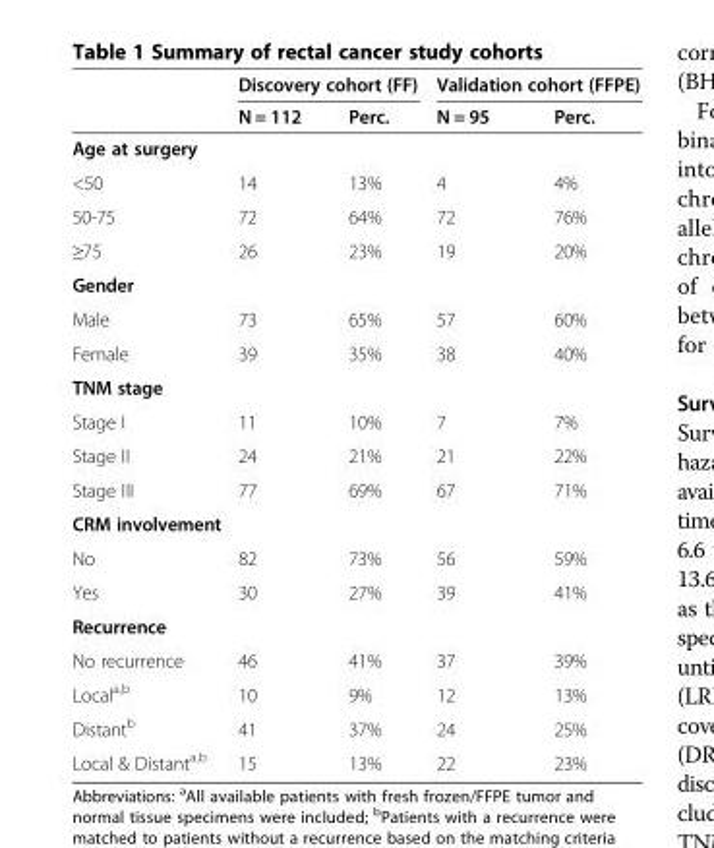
<table><thead><tr><td rowspan="2"></td><td colspan="2">Discovery cohort (FF)</td><td colspan="2">Validation cohort (FFPE)</td></tr><tr><td>N = 112</td><td>Perc.</td><td>N = 95</td><td>Perc.</td></tr></thead><tbody><tr><td colspan="5">Age at surgery</td></tr><tr><td>&lt;50</td><td>14</td><td>13%</td><td>4</td><td>4%</td></tr><tr><td>50-75</td><td>72</td><td>64%</td><td>72</td><td>76%</td></tr><tr><td>≥75</td><td>26</td><td>23%</td><td>19</td><td>20%</td></tr><tr><td colspan="5">Gender</td></tr><tr><td>Male</td><td>73</td><td>65%</td><td>57</td><td>60%</td></tr><tr><td>Female</td><td>39</td><td>35%</td><td>38</td><td>40%</td></tr><tr><td colspan="5">TNM stage</td></tr><tr><td>Stage I</td><td>11</td><td>10%</td><td>7</td><td>7%</td></tr><tr><td>Stage II</td><td>24</td><td>21%</td><td>21</td><td>22%</td></tr><tr><td>Stage III</td><td>77</td><td>69%</td><td>67</td><td>71%</td></tr><tr><td colspan="5">CRM involvement</td></tr><tr><td>No</td><td>82</td><td>73%</td><td>56</td><td>59%</td></tr><tr><td>Yes</td><td>30</td><td>27%</td><td>39</td><td>41%</td></tr><tr><td colspan="5">Recurrence</td></tr><tr><td>No recurrence</td><td>46</td><td>41%</td><td>37</td><td>39%</td></tr><tr><td>Local<sup>a,b</sup></td><td>10</td><td>9%</td><td>12</td><td>13%</td></tr><tr><td>Distant<sup>b</sup></td><td>41</td><td>37%</td><td>24</td><td>25%</td></tr><tr><td>Local &amp; Distant<sup>a,b</sup></td><td>15</td><td>13%</td><td>22</td><td>23%</td></tr></tbody></table>